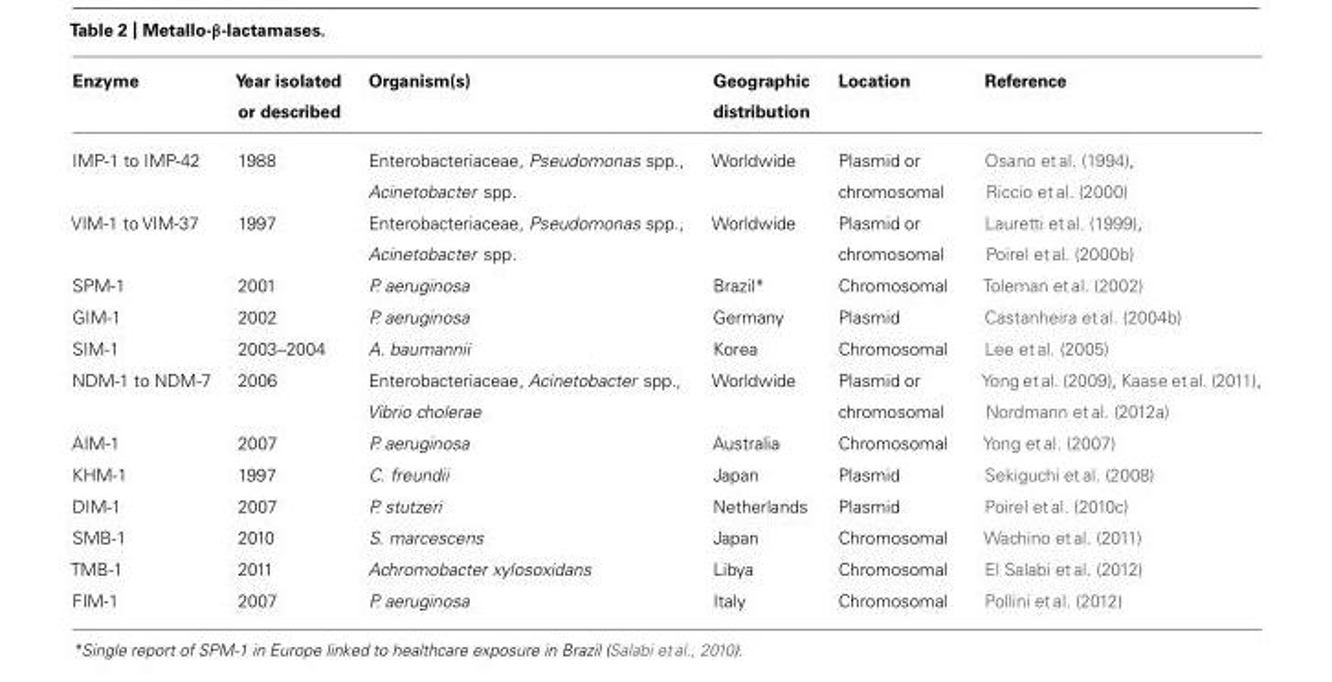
<table><thead><tr><td>Enzyme</td><td>Year isolated or described</td><td>Organism(s)</td><td>Geographic distribution</td><td>Location</td><td>Reference</td></tr></thead><tbody><tr><td>IMP-1 to IMP-42</td><td>1988</td><td>Enterobacteriaceae, Pseudomonas spp., Acinetobacter spp.</td><td>Worldwide</td><td>Plasmid or chromosomal</td><td>Osano et al. (1994), Riccio et al. (2000)</td></tr><tr><td>VIM-1 to VIM-37</td><td>1997</td><td>Enterobacteriaceae, Pseudomonas spp., Acinetobacter spp.</td><td>Worldwide</td><td>Plasmid or chromosomal</td><td>Lauretti et al. (1999), Poirel et al. (2000b)</td></tr><tr><td>SPM-1</td><td>2001</td><td>P. aeruginosa</td><td>Brazil*</td><td>Chromosomal</td><td>Toleman et al. (2002)</td></tr><tr><td>GIM-1</td><td>2002</td><td>P. aeruginosa</td><td>Germany</td><td>Plasmid</td><td>Castanheira et al. (2004b)</td></tr><tr><td>SIM-1</td><td>2003–2004</td><td>A. baumannii</td><td>Korea</td><td>Chromosomal</td><td>Lee et al. (2005)</td></tr><tr><td>NDM-1 to NDM-7</td><td>2006</td><td>Enterobacteriaceae, Acinetobacter spp., Vibrio cholerae</td><td>Worldwide</td><td>Plasmid or chromosomal</td><td>Yong et al. (2009), Kaase et al. (2011), Nordmann et al. (2012a)</td></tr><tr><td>AIM-1</td><td>2007</td><td>P. aeruginosa</td><td>Australia</td><td>Chromosomal</td><td>Yong et al. (2007)</td></tr><tr><td>KHM-1</td><td>1997</td><td>C. freundii</td><td>Japan</td><td>Plasmid</td><td>Sekiguchi et al. (2008)</td></tr><tr><td>DIM-1</td><td>2007</td><td>P. stutzeri</td><td>Netherlands</td><td>Plasmid</td><td>Poirel et al. (2010c)</td></tr><tr><td>SMB-1</td><td>2010</td><td>S. marcescens</td><td>Japan</td><td>Chromosomal</td><td>Wachino et al. (2011)</td></tr><tr><td>TMB-1</td><td>2011</td><td>Achromobacter xylosoxidans</td><td>Libya</td><td>Chromosomal</td><td>El Salabi et al. (2012)</td></tr><tr><td>FIM-1</td><td>2007</td><td>P. aeruginosa</td><td>Italy</td><td>Chromosomal</td><td>Pollini et al. (2012)</td></tr></tbody></table>